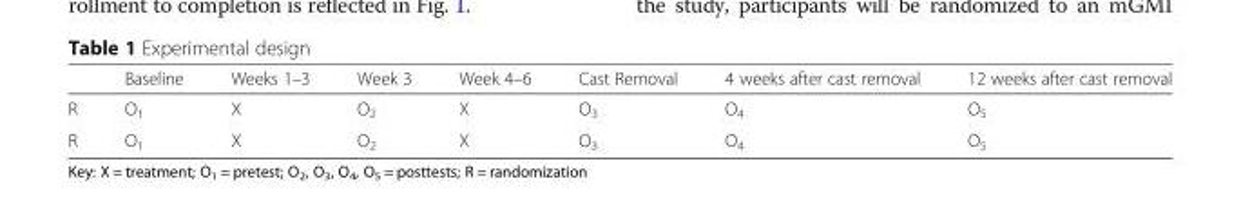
<table><thead><tr><td></td><td>Baseline</td><td>Weeks 1–3</td><td>Week 3</td><td>Week 4–6</td><td>Cast Removal</td><td>4 weeks after cast removal</td><td>12 weeks after cast removal</td></tr></thead><tbody><tr><td>R</td><td>O<sub>1</sub></td><td>X</td><td>O<sub>2</sub></td><td>X</td><td>O<sub>3</sub></td><td>O<sub>4</sub></td><td>O<sub>5</sub></td></tr><tr><td>R</td><td>O<sub>1</sub></td><td>X</td><td>O<sub>2</sub></td><td>X</td><td>O<sub>3</sub></td><td>O<sub>4</sub></td><td>O<sub>5</sub></td></tr></tbody></table>